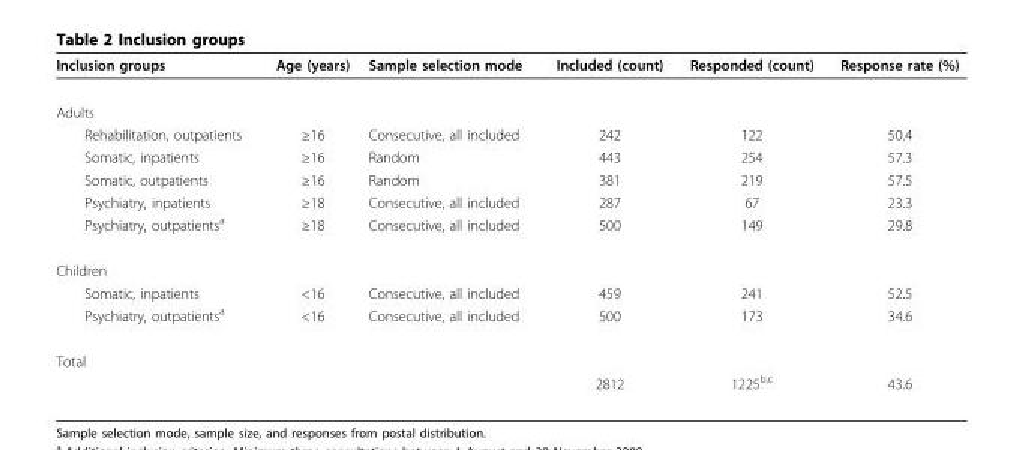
<table><thead><tr><td>Inclusion groups</td><td>Age (years)</td><td>Sample selection mode</td><td>Included (count)</td><td>Responded (count)</td><td>Response rate (%)</td></tr></thead><tbody><tr><td colspan="6">Adults</td></tr><tr><td>Rehabilitation, outpatients</td><td>≥16</td><td>Consecutive, all included</td><td>242</td><td>122</td><td>50.4</td></tr><tr><td>Somatic, inpatients</td><td>≥16</td><td>Random</td><td>443</td><td>254</td><td>57.3</td></tr><tr><td>Somatic, outpatients</td><td>≥16</td><td>Random</td><td>381</td><td>219</td><td>57.5</td></tr><tr><td>Psychiatry, inpatients</td><td>≥18</td><td>Consecutive, all included</td><td>287</td><td>67</td><td>23.3</td></tr><tr><td>Psychiatry, outpatients<sup>a</sup></td><td>≥18</td><td>Consecutive, all included</td><td>500</td><td>149</td><td>29.8</td></tr><tr><td colspan="6">Children</td></tr><tr><td>Somatic, inpatients</td><td>&lt;16</td><td>Consecutive, all included</td><td>459</td><td>241</td><td>52.5</td></tr><tr><td>Psychiatry, outpatients<sup>a</sup></td><td>&lt;16</td><td>Consecutive, all included</td><td>500</td><td>173</td><td>34.6</td></tr><tr><td colspan="6">Total</td></tr><tr><td></td><td></td><td></td><td>2812</td><td>1225<sup>b,c</sup></td><td>43.6</td></tr></tbody></table>